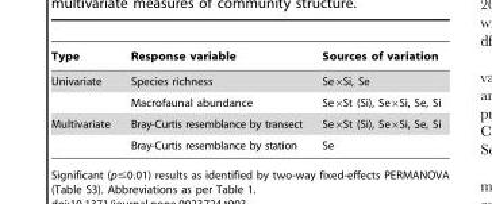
<table><thead><tr><td>Type</td><td>Response variable</td><td>Sources of variation</td></tr></thead><tbody><tr><td rowspan="2">Univariate</td><td>Species richness</td><td>Se×Si, Se</td></tr><tr><td>Macrofaunal abundance</td><td>Se×St (Si), Se×Si, Se, Si</td></tr><tr><td rowspan="2">Multivariate</td><td>Bray-Curtis resemblance by transect</td><td>Se×St (Si), Se×Si, Se, Si</td></tr><tr><td>Bray-Curtis resemblance by station</td><td>Se</td></tr></tbody></table>